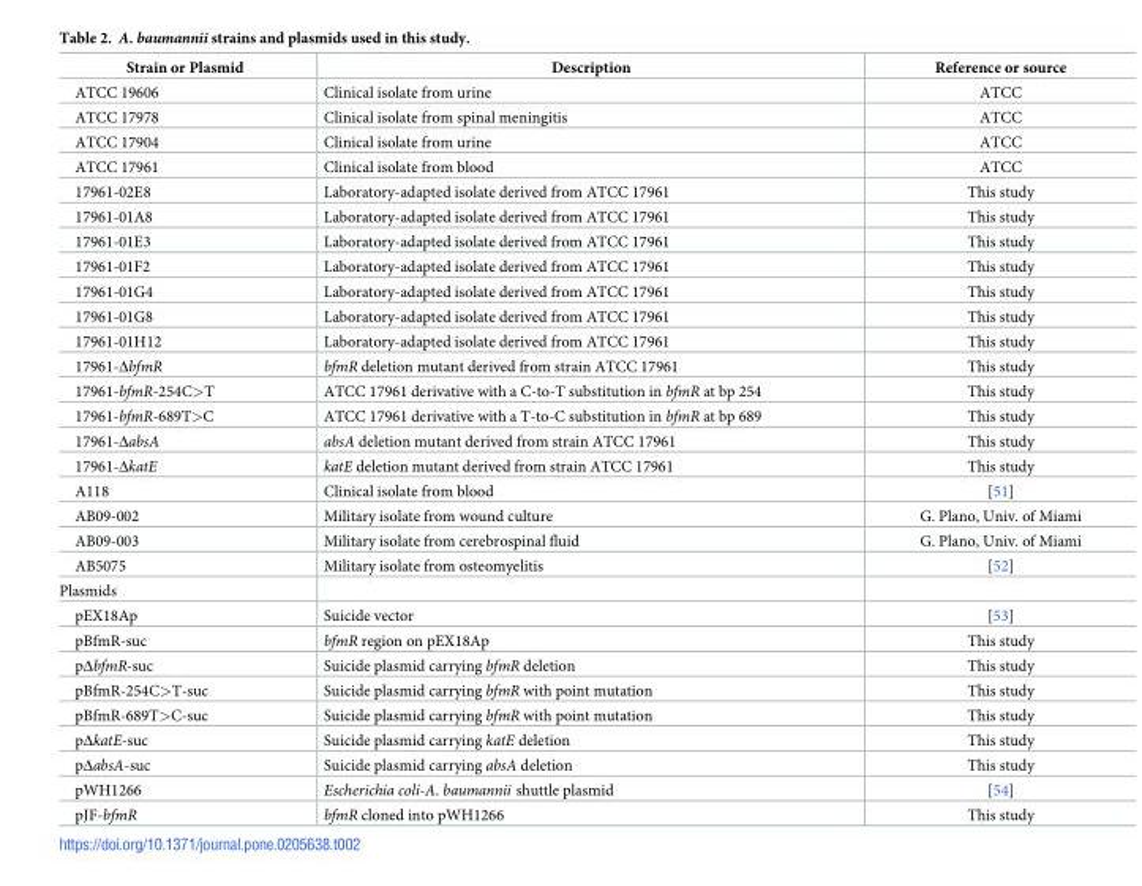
<table><thead><tr><td>Strain or Plasmid</td><td>Description</td><td>Reference or source</td></tr></thead><tbody><tr><td>ATCC 19606</td><td>Clinical isolate from urine</td><td>ATCC</td></tr><tr><td>ATCC 17978</td><td>Clinical isolate from spinal meningitis</td><td>ATCC</td></tr><tr><td>ATCC 17904</td><td>Clinical isolate from urine</td><td>ATCC</td></tr><tr><td>ATCC 17961</td><td>Clinical isolate from blood</td><td>ATCC</td></tr><tr><td>17961-02E8</td><td>Laboratory-adapted isolate derived from ATCC 17961</td><td>This study</td></tr><tr><td>17961-01A8</td><td>Laboratory-adapted isolate derived from ATCC 17961</td><td>This study</td></tr><tr><td>17961-01E3</td><td>Laboratory-adapted isolate derived from ATCC 17961</td><td>This study</td></tr><tr><td>17961-01F2</td><td>Laboratory-adapted isolate derived from ATCC 17961</td><td>This study</td></tr><tr><td>17961-01G4</td><td>Laboratory-adapted isolate derived from ATCC 17961</td><td>This study</td></tr><tr><td>17961-01G8</td><td>Laboratory-adapted isolate derived from ATCC 17961</td><td>This study</td></tr><tr><td>17961-01H12</td><td>Laboratory-adapted isolate derived from ATCC 17961</td><td>This study</td></tr><tr><td>17961-ΔbfmR</td><td>bfmR deletion mutant derived from strain ATCC 17961</td><td>This study</td></tr><tr><td>17961-bfmR-254C&gt;T</td><td>ATCC 17961 derivative with a C-to-T substitution in bfmR at bp 254</td><td>This study</td></tr><tr><td>17961-bfmR-689T&gt;C</td><td>ATCC 17961 derivative with a T-to-C substitution in bfmR at bp 689</td><td>This study</td></tr><tr><td>17961-ΔabsA</td><td>absA deletion mutant derived from strain ATCC 17961</td><td>This study</td></tr><tr><td>17961-ΔkatE</td><td>katE deletion mutant derived from strain ATCC 17961</td><td>This study</td></tr><tr><td>A118</td><td>Clinical isolate from blood</td><td>[51]</td></tr><tr><td>AB09-002</td><td>Military isolate from wound culture</td><td>G. Plano, Univ. of Miami</td></tr><tr><td>AB09-003</td><td>Military isolate from cerebrospinal fluid</td><td>G. Plano, Univ. of Miami</td></tr><tr><td>AB5075</td><td>Military isolate from osteomyelitis</td><td>[52]</td></tr><tr><td colspan="3">Plasmids</td></tr><tr><td>pEX18Ap</td><td>Suicide vector</td><td>[53]</td></tr><tr><td>pBfmR-suc</td><td>bfmR region on pEX18Ap</td><td>This study</td></tr><tr><td>pΔbfmR-suc</td><td>Suicide plasmid carrying bfmR deletion</td><td>This study</td></tr><tr><td>pBfmR-254C&gt;T-suc</td><td>Suicide plasmid carrying bfmR with point mutation</td><td>This study</td></tr><tr><td>pBfmR-689T&gt;C-suc</td><td>Suicide plasmid carrying bfmR with point mutation</td><td>This study</td></tr><tr><td>pΔkatE-suc</td><td>Suicide plasmid carrying katE deletion</td><td>This study</td></tr><tr><td>pΔabsA-suc</td><td>Suicide plasmid carrying absA deletion</td><td>This study</td></tr><tr><td>pWH1266</td><td>Escherichia coli-A. baumannii shuttle plasmid</td><td>[54]</td></tr><tr><td>pJF-bfmR</td><td>bfmR cloned into pWH1266</td><td>This study</td></tr></tbody></table>